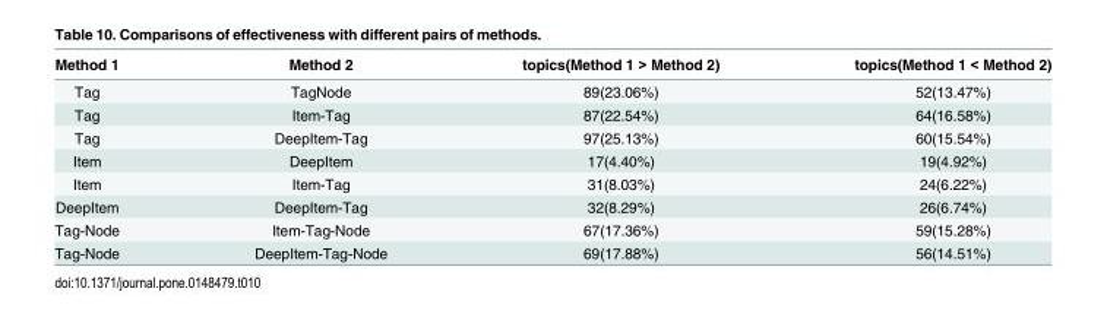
<table><thead><tr><td>Method 1</td><td>Method 2</td><td>topics(Method 1 &gt; Method 2)</td><td>topics(Method 1 &lt; Method 2)</td></tr></thead><tbody><tr><td>Tag</td><td>TagNode</td><td>89(23.06%)</td><td>52(13.47%)</td></tr><tr><td>Tag</td><td>Item-Tag</td><td>87(22.54%)</td><td>64(16.58%)</td></tr><tr><td>Tag</td><td>DeepItem-Tag</td><td>97(25.13%)</td><td>60(15.54%)</td></tr><tr><td>Item</td><td>DeepItem</td><td>17(4.40%)</td><td>19(4.92%)</td></tr><tr><td>Item</td><td>Item-Tag</td><td>31(8.03%)</td><td>24(6.22%)</td></tr><tr><td>DeepItem</td><td>DeepItem-Tag</td><td>32(8.29%)</td><td>26(6.74%)</td></tr><tr><td>Tag-Node</td><td>Item-Tag-Node</td><td>67(17.36%)</td><td>59(15.28%)</td></tr><tr><td>Tag-Node</td><td>DeepItem-Tag-Node</td><td>69(17.88%)</td><td>56(14.51%)</td></tr></tbody></table>